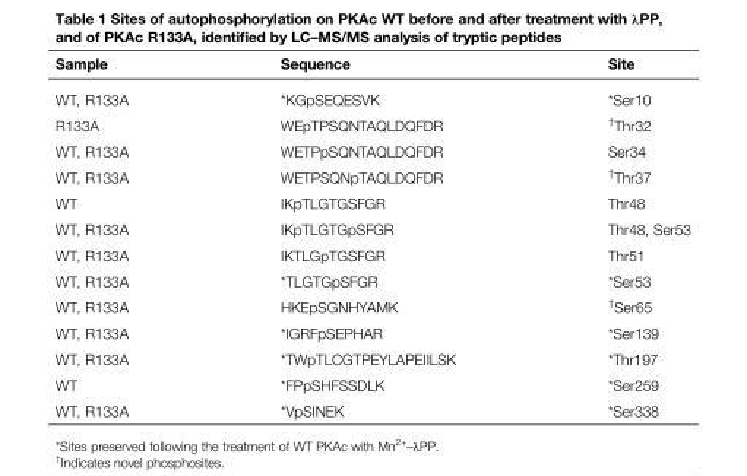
<table><thead><tr><td>Sample</td><td>Sequence</td><td>Site</td></tr></thead><tbody><tr><td>WT, R133A</td><td>*KGpSEQESVK</td><td>*Ser10</td></tr><tr><td>R133A</td><td>WEpTPSQNTAQLDQFDR</td><td><sup>†</sup>Thr32</td></tr><tr><td>WT, R133A</td><td>WETPpSQNTAQLDQFDR</td><td>Ser34</td></tr><tr><td>WT, R133A</td><td>WETPSQNpTAQLDQFDR</td><td><sup>†</sup>Thr37</td></tr><tr><td>WT</td><td>IKpTLGTGSFGR</td><td>Thr48</td></tr><tr><td>WT, R133A</td><td>IKpTLGTGpSFGR</td><td>Thr48, Ser53</td></tr><tr><td>WT, R133A</td><td>IKTLGpTGSFGR</td><td>Thr51</td></tr><tr><td>WT, R133A</td><td>*TLGTGpSFGR</td><td>*Ser53</td></tr><tr><td>WT, R133A</td><td>HKEpSGNHYAMK</td><td><sup>†</sup>Ser65</td></tr><tr><td>WT, R133A</td><td>*IGRFpSEPHAR</td><td>*Ser139</td></tr><tr><td>WT, R133A</td><td>*TWpTLCGTPEYLAPEIILSK</td><td>*Thr197</td></tr><tr><td>WT</td><td>*FPpSHFSSDLK</td><td>*Ser259</td></tr><tr><td>WT, R133A</td><td>*VpSINEK</td><td>*Ser338</td></tr></tbody></table>